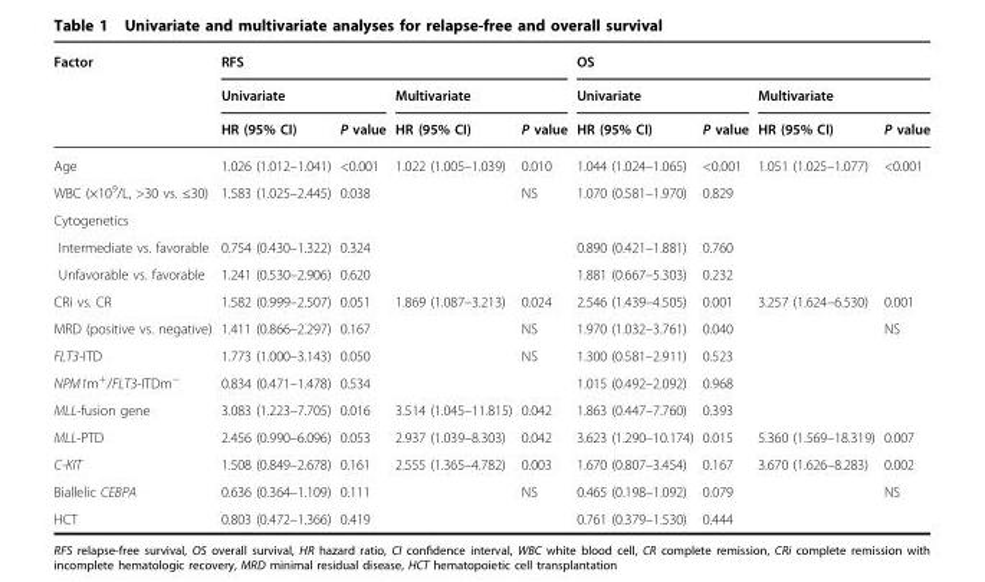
<table><thead><tr><td rowspan="3">Factor</td><td colspan="4">RFS</td><td colspan="4">OS</td></tr><tr><td colspan="2">Univariate</td><td colspan="2">Multivariate</td><td colspan="2">Univariate</td><td colspan="2">Multivariate</td></tr><tr><td>HR (95% CI)</td><td>P value</td><td>HR (95% CI)</td><td>P value</td><td>HR (95% CI)</td><td>P value</td><td>HR (95% CI)</td><td>P value</td></tr></thead><tbody><tr><td>Age</td><td>1.026 (1.012–1.041)</td><td>&lt;0.001</td><td>1.022 (1.005–1.039)</td><td>0.010</td><td>1.044 (1.024–1.065)</td><td>&lt;0.001</td><td>1.051 (1.025–1.077)</td><td>&lt;0.001</td></tr><tr><td>WBC (×10<sup>9</sup>/L, &gt;30 vs. ≤30)</td><td>1.583 (1.025–2.445)</td><td>0.038</td><td></td><td>NS</td><td>1.070 (0.581–1.970)</td><td>0.829</td><td></td><td></td></tr><tr><td colspan="9">Cytogenetics</td></tr><tr><td>Intermediate vs. favorable</td><td>0.754 (0.430–1.322)</td><td>0.324</td><td></td><td></td><td>0.890 (0.421–1.881)</td><td>0.760</td><td></td><td></td></tr><tr><td>Unfavorable vs. favorable</td><td>1.241 (0.530–2.906)</td><td>0.620</td><td></td><td></td><td>1.881 (0.667–5.303)</td><td>0.232</td><td></td><td></td></tr><tr><td>CRi vs. CR</td><td>1.582 (0.999–2.507)</td><td>0.051</td><td>1.869 (1.087–3.213)</td><td>0.024</td><td>2.546 (1.439–4.505)</td><td>0.001</td><td>3.257 (1.624–6.530)</td><td>0.001</td></tr><tr><td>MRD (positive vs. negative)</td><td>1.411 (0.866–2.297)</td><td>0.167</td><td></td><td>NS</td><td>1.970 (1.032–3.761)</td><td>0.040</td><td></td><td>NS</td></tr><tr><td>FLT3-ITD</td><td>1.773 (1.000–3.143)</td><td>0.050</td><td></td><td>NS</td><td>1.300 (0.581–2.911)</td><td>0.523</td><td></td><td></td></tr><tr><td>NPM1m<sup>+</sup>/FLT3-ITDm<sup>−</sup></td><td>0.834 (0.471–1.478)</td><td>0.534</td><td></td><td></td><td>1.015 (0.492–2.092)</td><td>0.968</td><td></td><td></td></tr><tr><td>MLL-fusion gene</td><td>3.083 (1.223–7.705)</td><td>0.016</td><td>3.514 (1.045–11.815)</td><td>0.042</td><td>1.863 (0.447–7.760)</td><td>0.393</td><td></td><td></td></tr><tr><td>MLL-PTD</td><td>2.456 (0.990–6.096)</td><td>0.053</td><td>2.937 (1.039–8.303)</td><td>0.042</td><td>3.623 (1.290–10.174)</td><td>0.015</td><td>5.360 (1.569–18.319)</td><td>0.007</td></tr><tr><td>C-KIT</td><td>1.508 (0.849–2.678)</td><td>0.161</td><td>2.555 (1.365–4.782)</td><td>0.003</td><td>1.670 (0.807–3.454)</td><td>0.167</td><td>3.670 (1.626–8.283)</td><td>0.002</td></tr><tr><td>Biallelic CEBPA</td><td>0.636 (0.364–1.109)</td><td>0.111</td><td></td><td>NS</td><td>0.465 (0.198–1.092)</td><td>0.079</td><td></td><td>NS</td></tr><tr><td>HCT</td><td>0.803 (0.472–1.366)</td><td>0.419</td><td></td><td></td><td>0.761 (0.379–1.530)</td><td>0.444</td><td></td><td></td></tr></tbody></table>